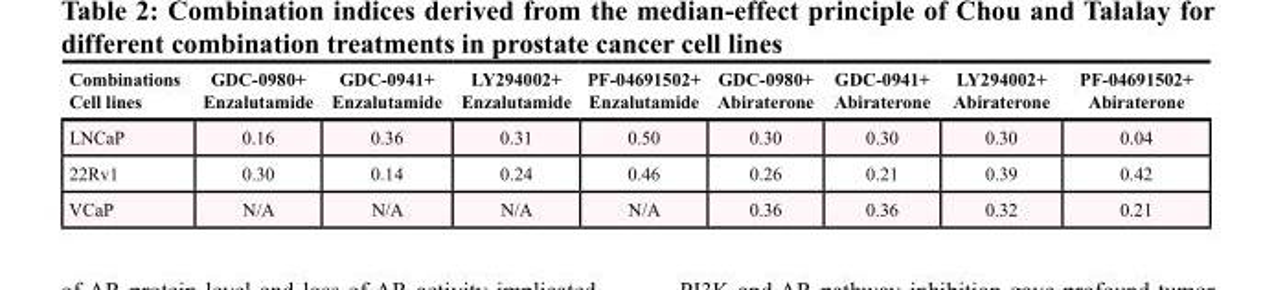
<table><thead><tr><td>Combinations Cell lines</td><td>GDC-0980+ Enzalutamide</td><td>GDC-0941+ Enzalutamide</td><td>LY294002+ Enzalutamide</td><td>PF-04691502+ Enzalutamide</td><td>GDC-0980+ Abiraterone</td><td>GDC-0941+ Abiraterone</td><td>LY294002+ Abiraterone</td><td>PF-04691502+ Abiraterone</td></tr></thead><tbody><tr><td>LNCaP</td><td>0.16</td><td>0.36</td><td>0.31</td><td>0.50</td><td>0.30</td><td>0.30</td><td>0.30</td><td>0.04</td></tr><tr><td>22Rv1</td><td>0.30</td><td>0.14</td><td>0.24</td><td>0.46</td><td>0.26</td><td>0.21</td><td>0.39</td><td>0.42</td></tr><tr><td>VCaP</td><td>N/A</td><td>N/A</td><td>N/A</td><td>N/A</td><td>0.36</td><td>0.36</td><td>0.32</td><td>0.21</td></tr></tbody></table>